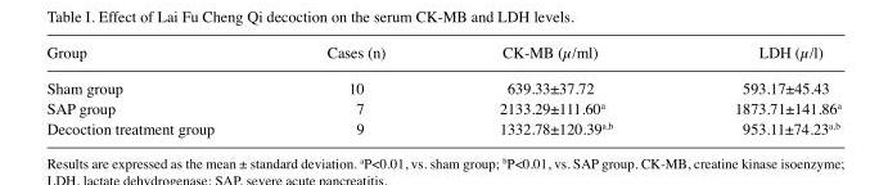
<table><thead><tr><td>Group</td><td>Cases (n)</td><td>CK-MB (µ/ml)</td><td>LDH (µ/l)</td></tr></thead><tbody><tr><td>Sham group</td><td>10</td><td>639.33±37.72</td><td>593.17±45.43</td></tr><tr><td>SAP group</td><td>7</td><td>2133.29±111.60<sup>a</sup></td><td>1873.71±141.86<sup>a</sup></td></tr><tr><td>Decoction treatment group</td><td>9</td><td>1332.78±120.39<sup>a</sup>,<sup>b</sup></td><td>953.11±74.23<sup>a</sup>,<sup>b</sup></td></tr></tbody></table>